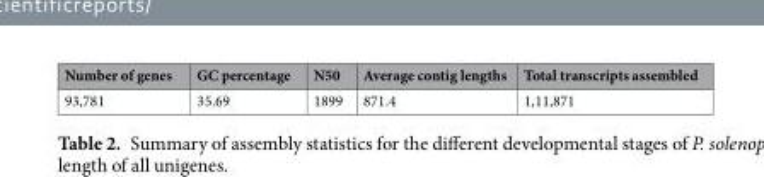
<table><thead><tr><td>Number of genes</td><td>GC percentage</td><td>N50</td><td>Average contig lengths</td><td>Total transcripts assembled</td></tr></thead><tbody><tr><td>93,781</td><td>35.69</td><td>1899</td><td>871.4</td><td>1,11,871</td></tr></tbody></table>